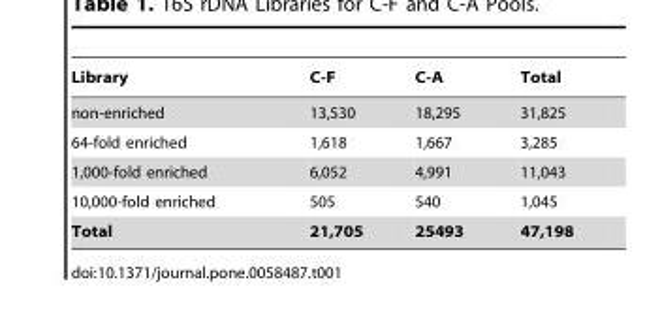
<table><thead><tr><td>Library</td><td>C-F</td><td>C-A</td><td>Total</td></tr></thead><tbody><tr><td>non-enriched</td><td>13,530</td><td>18,295</td><td>31,825</td></tr><tr><td>64-fold enriched</td><td>1,618</td><td>1,667</td><td>3,285</td></tr><tr><td>1,000-fold enriched</td><td>6,052</td><td>4,991</td><td>11,043</td></tr><tr><td>10,000-fold enriched</td><td>505</td><td>540</td><td>1,045</td></tr><tr><td>Total</td><td>21,705</td><td>25493</td><td>47,198</td></tr></tbody></table>